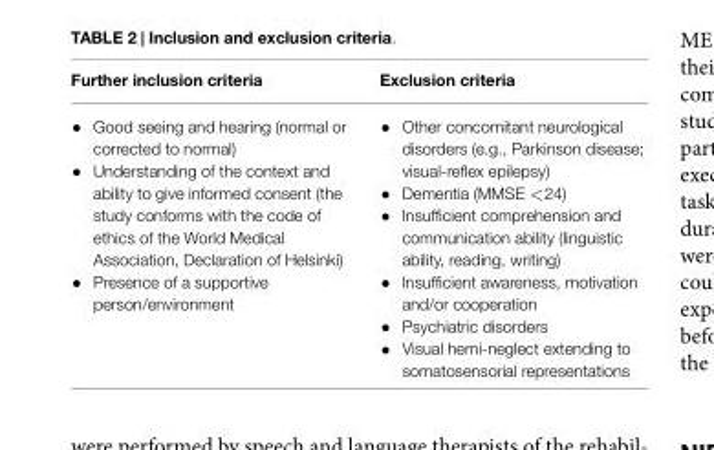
<table><thead><tr><td>Further inclusion criteria</td><td>Exclusion criteria</td></tr></thead><tbody><tr><td>• Good seeing and hearing (normal or corrected to normal) • Understanding of the context and ability to give informed consent (the study conforms with the code of ethics of the World Medical Association, Declaration of Helsinki) • Presence of a supportive person/environment</td><td>• Other concomitant neurological disorders (e.g., Parkinson disease; visual-reflex epilepsy) • Dementia (MMSE &lt;24) • Insufficient comprehension and communication ability (linguistic ability, reading, writing) • Insufficient awareness, motivation and/or cooperation • Psychiatric disorders • Visual hemi-neglect extending to somatosensorial representations</td></tr></tbody></table>